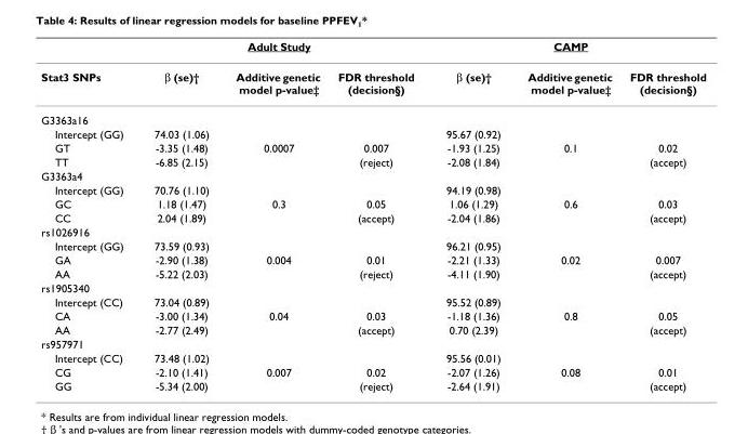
<table><thead><tr><td rowspan="2">Stat3 SNPs</td><td colspan="3">Adult Study</td><td colspan="3">CAMP</td></tr><tr><td>β (se)†</td><td>Additive genetic model p-value‡</td><td>FDR threshold (decision§)</td><td>β (se)†</td><td>Additive genetic model p-value‡</td><td>FDR threshold (decision§)</td></tr></thead><tbody><tr><td colspan="7">G3363a16</td></tr><tr><td>Intercept (GG)</td><td>74.03 (1.06)</td><td></td><td></td><td>95.67 (0.92)</td><td></td><td></td></tr><tr><td>GT</td><td>-3.35 (1.48)</td><td>0.0007</td><td>0.007</td><td>-1.93 (1.25)</td><td>0.1</td><td>0.02</td></tr><tr><td>TT</td><td>-6.85 (2.15)</td><td></td><td>(reject)</td><td>-2.08 (1.84)</td><td></td><td>(accept)</td></tr><tr><td colspan="7">G3363a4</td></tr><tr><td>Intercept (GG)</td><td>70.76 (1.10)</td><td></td><td></td><td>94.19 (0.98)</td><td></td><td></td></tr><tr><td>GC</td><td>1.18 (1.47)</td><td>0.3</td><td>0.05</td><td>1.06 (1.29)</td><td>0.6</td><td>0.03</td></tr><tr><td>CC</td><td>2.04 (1.89)</td><td></td><td>(accept)</td><td>-2.04 (1.86)</td><td></td><td>(accept)</td></tr><tr><td colspan="7">rs1026916</td></tr><tr><td>Intercept (GG)</td><td>73.59 (0.93)</td><td></td><td></td><td>96.21 (0.95)</td><td></td><td></td></tr><tr><td>GA</td><td>-2.90 (1.38)</td><td>0.004</td><td>0.01</td><td>-2.21 (1.33)</td><td>0.02</td><td>0.007</td></tr><tr><td>AA</td><td>-5.22 (2.03)</td><td></td><td>(reject)</td><td>-4.11 (1.90)</td><td></td><td>(accept)</td></tr><tr><td colspan="7">rs1905340</td></tr><tr><td>Intercept (CC)</td><td>73.04 (0.89)</td><td></td><td></td><td>95.52 (0.89)</td><td></td><td></td></tr><tr><td>CA</td><td>-3.00 (1.34)</td><td>0.04</td><td>0.03</td><td>-1.18 (1.36)</td><td>0.8</td><td>0.05</td></tr><tr><td>AA</td><td>-2.77 (2.49)</td><td></td><td>(accept)</td><td>0.70 (2.39)</td><td></td><td>(accept)</td></tr><tr><td colspan="7">rs957971</td></tr><tr><td>Intercept (CC)</td><td>73.48 (1.02)</td><td></td><td></td><td>95.56 (0.01)</td><td></td><td></td></tr><tr><td>CG</td><td>-2.10 (1.41)</td><td>0.007</td><td>0.02</td><td>-2.07 (1.26)</td><td>0.08</td><td>0.01</td></tr><tr><td>GG</td><td>-5.34 (2.00)</td><td></td><td>(reject)</td><td>-2.64 (1.91)</td><td></td><td>(accept)</td></tr></tbody></table>